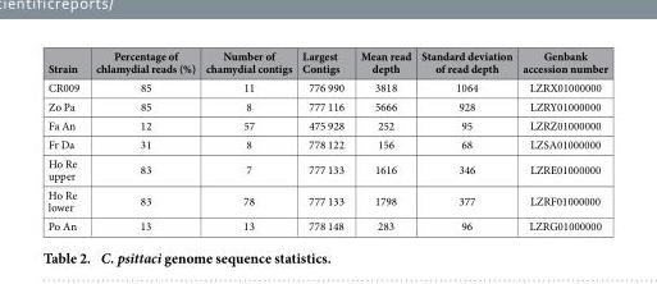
<table><thead><tr><td>Strain</td><td>Percentage of chlamydial reads (%)</td><td>Number of chamydial contigs</td><td>Largest Contigs</td><td>Mean read depth</td><td>Standard deviation of read depth</td><td>Genbank accession number</td></tr></thead><tbody><tr><td>CR009</td><td>85</td><td>11</td><td>776 990</td><td>3818</td><td>1064</td><td>LZRX01000000</td></tr><tr><td>Zo Pa</td><td>85</td><td>8</td><td>777 116</td><td>5666</td><td>928</td><td>LZRY01000000</td></tr><tr><td>Fa An</td><td>12</td><td>57</td><td>475 928</td><td>252</td><td>95</td><td>LZRZ01000000</td></tr><tr><td>Fr Da</td><td>31</td><td>8</td><td>778 122</td><td>156</td><td>68</td><td>LZSA01000000</td></tr><tr><td>Ho Re upper</td><td>83</td><td>7</td><td>777 133</td><td>1616</td><td>346</td><td>LZRE01000000</td></tr><tr><td>Ho Re lower</td><td>83</td><td>78</td><td>777 133</td><td>1798</td><td>377</td><td>LZRF01000000</td></tr><tr><td>Po An</td><td>13</td><td>13</td><td>778 148</td><td>283</td><td>96</td><td>LZRG01000000</td></tr></tbody></table>